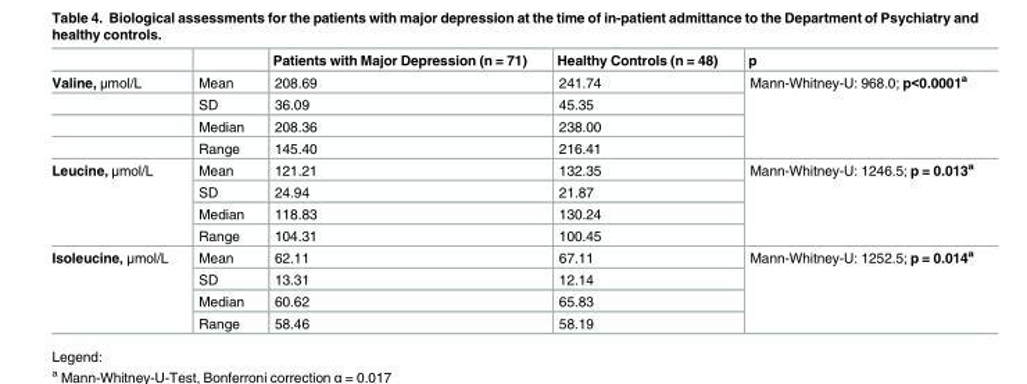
<table><thead><tr><td></td><td></td><td>Patients with Major Depression (n = 71)</td><td>Healthy Controls (n = 48)</td><td>p</td></tr></thead><tbody><tr><td rowspan="4">Valine, μmol/L</td><td>Mean</td><td>208.69</td><td>241.74</td><td rowspan="4">Mann-Whitney-U: 968.0; p&lt;0.0001<sup>a</sup></td></tr><tr><td>SD</td><td>36.09</td><td>45.35</td></tr><tr><td>Median</td><td>208.36</td><td>238.00</td></tr><tr><td>Range</td><td>145.40</td><td>216.41</td></tr><tr><td rowspan="4">Leucine, μmol/L</td><td>Mean</td><td>121.21</td><td>132.35</td><td rowspan="4">Mann-Whitney-U: 1246.5; p = 0.013<sup>a</sup></td></tr><tr><td>SD</td><td>24.94</td><td>21.87</td></tr><tr><td>Median</td><td>118.83</td><td>130.24</td></tr><tr><td>Range</td><td>104.31</td><td>100.45</td></tr><tr><td rowspan="4">Isoleucine, μmol/L</td><td>Mean</td><td>62.11</td><td>67.11</td><td rowspan="4">Mann-Whitney-U: 1252.5; p = 0.014<sup>a</sup></td></tr><tr><td>SD</td><td>13.31</td><td>12.14</td></tr><tr><td>Median</td><td>60.62</td><td>65.83</td></tr><tr><td>Range</td><td>58.46</td><td>58.19</td></tr></tbody></table>